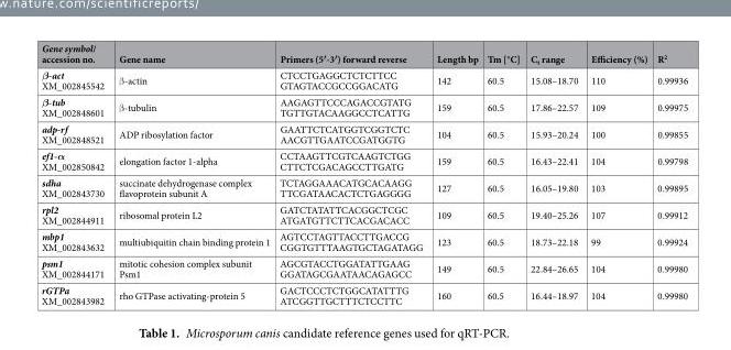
<table><thead><tr><td>Gene symbol/ accession no.</td><td>Gene name</td><td>Primers (5′-3′) forward reverse</td><td>Length bp</td><td>Tm [°C]</td><td>C<sub>t</sub> range</td><td>Efficiency (%)</td><td>R<sup>2</sup></td></tr></thead><tbody><tr><td>β-act XM_002845542</td><td>β-actin</td><td>CTCCTGAGGCTCTCTTCC GTAGTACCGCCGGACATG</td><td>142</td><td>60.5</td><td>15.08–18.70</td><td>110</td><td>0.99936</td></tr><tr><td>β-tub XM_002848601</td><td>β-tubulin</td><td>AAGAGTTCCCAGACCGTATG TGTTGTACAAGGCCTCATTG</td><td>159</td><td>60.5</td><td>17.86–22.57</td><td>109</td><td>0.99975</td></tr><tr><td>adp-rf XM_002848521</td><td>ADP ribosylation factor</td><td>GAATTCTCATGGTCGGTCTC AACGTTGAATCCGATGGTG</td><td>104</td><td>60.5</td><td>15.93–20.24</td><td>100</td><td>0.99855</td></tr><tr><td>ef1-α XM_002850842</td><td>elongation factor 1-alpha</td><td>CCTAAGTTCGTCAAGTCTGG CTTCTCGACAGCCTTGATG</td><td>159</td><td>60.5</td><td>16.43–22.41</td><td>104</td><td>0.99798</td></tr><tr><td>sdha XM_002843730</td><td>succinate dehydrogenase complex flavoprotein subunit A</td><td>TCTAGGAAACATGCACAAGG TTCGATAACACTCTGAGGGG</td><td>127</td><td>60.5</td><td>16.05–19.80</td><td>103</td><td>0.99895</td></tr><tr><td>rpl2 XM_002844911</td><td>ribosomal protein L2</td><td>GATCTATATTCACGGCTCGC ATGATGTTCTTCACGACACC</td><td>109</td><td>60.5</td><td>19.40–25.26</td><td>107</td><td>0.99912</td></tr><tr><td>mbp1 XM_002843632</td><td>multiubiquitin chain binding protein 1</td><td>AGTCCTAGTTACCTTGACCG CGGTGTTTAAGTGCTAGATAGG</td><td>123</td><td>60.5</td><td>18.73–22.18</td><td>99</td><td>0.99924</td></tr><tr><td>psm1 XM_002844171</td><td>mitotic cohesion complex subunit Psm1</td><td>AGCGTACCTGGATATTGAAG GGATAGCGAATAACAGAGCC</td><td>149</td><td>60.5</td><td>22.84–26.65</td><td>104</td><td>0.99980</td></tr><tr><td>rGTPa XM_002843982</td><td>rho GTPase activating-protein 5</td><td>GACTCCCTCTGGCATATTTG ATCGGTTGCTTTCTCCTTC</td><td>160</td><td>60.5</td><td>16.44–18.97</td><td>104</td><td>0.99980</td></tr></tbody></table>